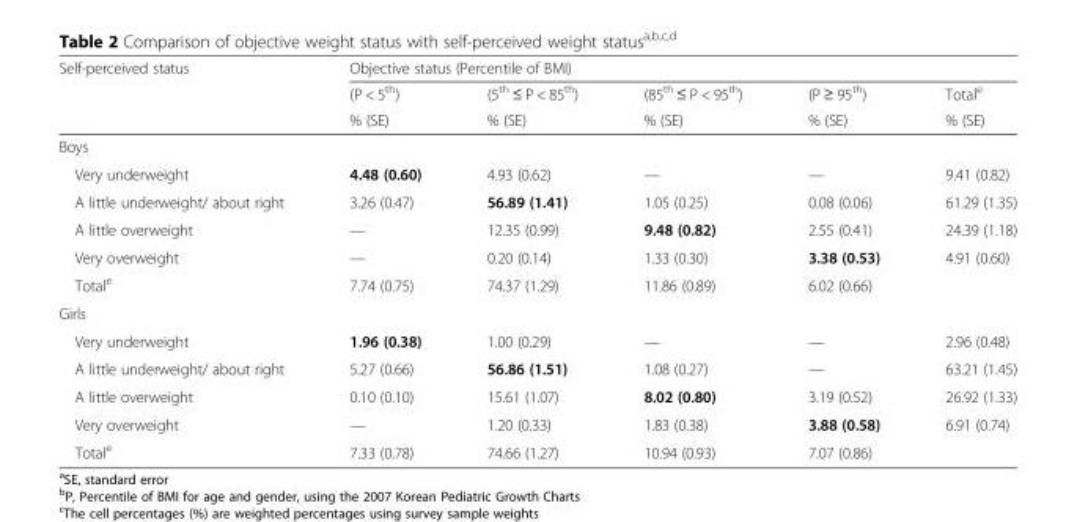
<table><thead><tr><td rowspan="3">Self-perceived status</td><td colspan="5">Objective status (Percentile of BMI)</td></tr><tr><td rowspan="2">(P &lt; 5<sup>th</sup>) % (SE)</td><td rowspan="2">(5<sup>th</sup> ≤ P &lt; 85<sup>th</sup>) % (SE)</td><td rowspan="2">(85<sup>th</sup> ≤ P &lt; 95<sup>th</sup>) % (SE)</td><td rowspan="2">(P ≥ 95<sup>th</sup>) % (SE)</td><td rowspan="2">Totale % (SE)</td></tr><tr></tr></thead><tbody><tr><td colspan="6">Boys</td></tr><tr><td>Very underweight</td><td>4.48 (0.60)</td><td>4.93 (0.62)</td><td>—</td><td>—</td><td>9.41 (0.82)</td></tr><tr><td>A little underweight/ about right</td><td>3.26 (0.47)</td><td>56.89 (1.41)</td><td>1.05 (0.25)</td><td>0.08 (0.06)</td><td>61.29 (1.35)</td></tr><tr><td>A little overweight</td><td>—</td><td>12.35 (0.99)</td><td>9.48 (0.82)</td><td>2.55 (0.41)</td><td>24.39 (1.18)</td></tr><tr><td>Very overweight</td><td>—</td><td>0.20 (0.14)</td><td>1.33 (0.30)</td><td>3.38 (0.53)</td><td>4.91 (0.60)</td></tr><tr><td>Total<sup>e</sup></td><td>7.74 (0.75)</td><td>74.37 (1.29)</td><td>11.86 (0.89)</td><td>6.02 (0.66)</td><td></td></tr><tr><td colspan="6">Girls</td></tr><tr><td>Very underweight</td><td>1.96 (0.38)</td><td>1.00 (0.29)</td><td>—</td><td>—</td><td>2.96 (0.48)</td></tr><tr><td>A little underweight/ about right</td><td>5.27 (0.66)</td><td>56.86 (1.51)</td><td>1.08 (0.27)</td><td>—</td><td>63.21 (1.45)</td></tr><tr><td>A little overweight</td><td>0.10 (0.10)</td><td>15.61 (1.07)</td><td>8.02 (0.80)</td><td>3.19 (0.52)</td><td>26.92 (1.33)</td></tr><tr><td>Very overweight</td><td>—</td><td>1.20 (0.33)</td><td>1.83 (0.38)</td><td>3.88 (0.58)</td><td>6.91 (0.74)</td></tr><tr><td>Total<sup>e</sup></td><td>7.33 (0.78)</td><td>74.66 (1.27)</td><td>10.94 (0.93)</td><td>7.07 (0.86)</td><td></td></tr></tbody></table>